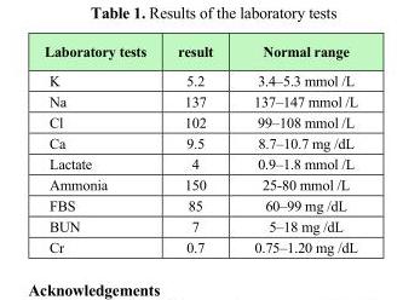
<table><thead><tr><td>Laboratory tests</td><td>result</td><td>Normal range</td></tr></thead><tbody><tr><td>K</td><td>5.2</td><td>3.4–5.3 mmol /L</td></tr><tr><td>Na</td><td>137</td><td>137–147 mmol /L</td></tr><tr><td>Cl</td><td>102</td><td>99–108 mmol /L</td></tr><tr><td>Ca</td><td>9.5</td><td>8.7–10.7 mg /dL</td></tr><tr><td>Lactate</td><td>4</td><td>0.9–1.8 mmol /L</td></tr><tr><td>Ammonia</td><td>150</td><td>25-80 mmol /L</td></tr><tr><td>FBS</td><td>85</td><td>60–99 mg /dL</td></tr><tr><td>BUN</td><td>7</td><td>5–18 mg /dL</td></tr><tr><td>Cr</td><td>0.7</td><td>0.75–1.20 mg /dL</td></tr></tbody></table>